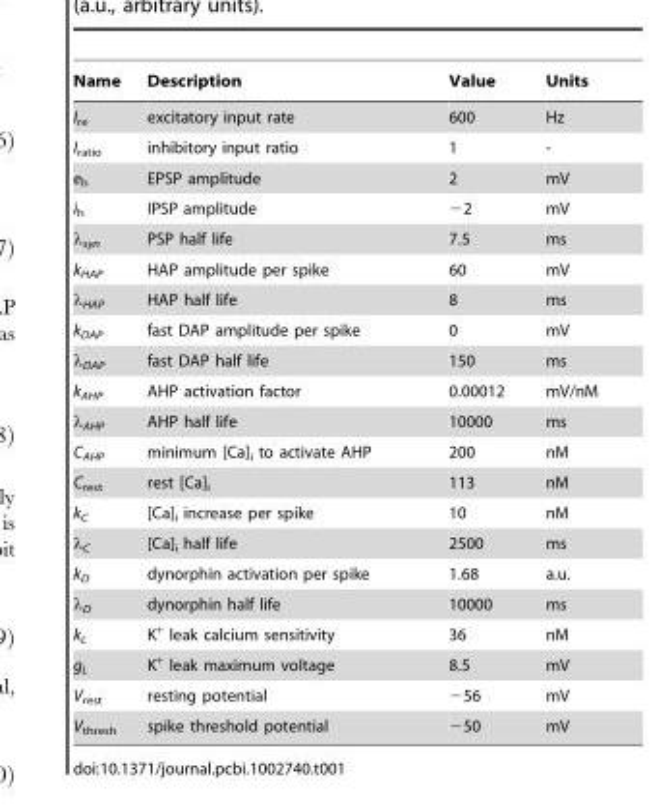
<table><thead><tr><td>Name</td><td>Description</td><td>Value</td><td>Units</td></tr></thead><tbody><tr><td>I<sub>re</sub></td><td>excitatory input rate</td><td>600</td><td>Hz</td></tr><tr><td>I<sub>ratio</sub></td><td>inhibitory input ratio</td><td>1</td><td>-</td></tr><tr><td>e<sub>h</sub></td><td>EPSP amplitude</td><td>2</td><td>mV</td></tr><tr><td>i<sub>h</sub></td><td>IPSP amplitude</td><td>−2</td><td>mV</td></tr><tr><td>λ<sub>syn</sub></td><td>PSP half life</td><td>7.5</td><td>ms</td></tr><tr><td>k<sub>HAP</sub></td><td>HAP amplitude per spike</td><td>60</td><td>mV</td></tr><tr><td>λ<sub>HAP</sub></td><td>HAP half life</td><td>8</td><td>ms</td></tr><tr><td>k<sub>DAP</sub></td><td>fast DAP amplitude per spike</td><td>0</td><td>mV</td></tr><tr><td>λ<sub>DAP</sub></td><td>fast DAP half life</td><td>150</td><td>ms</td></tr><tr><td>k<sub>AHP</sub></td><td>AHP activation factor</td><td>0.00012</td><td>mV/nM</td></tr><tr><td>λ<sub>AHP</sub></td><td>AHP half life</td><td>10000</td><td>ms</td></tr><tr><td>C<sub>AHP</sub></td><td>minimum [Ca]<sub>i</sub> to activate AHP</td><td>200</td><td>nM</td></tr><tr><td>C<sub>rest</sub></td><td>rest [Ca]<sub>i</sub></td><td>113</td><td>nM</td></tr><tr><td>k<sub>C</sub></td><td>[Ca]<sub>i</sub> increase per spike</td><td>10</td><td>nM</td></tr><tr><td>λ<sub>C</sub></td><td>[Ca]<sub>i</sub> half life</td><td>2500</td><td>ms</td></tr><tr><td>k<sub>D</sub></td><td>dynorphin activation per spike</td><td>1.68</td><td>a.u.</td></tr><tr><td>λ<sub>D</sub></td><td>dynorphin half life</td><td>10000</td><td>ms</td></tr><tr><td>k<sub>L</sub></td><td>K<sup>+</sup> leak calcium sensitivity</td><td>36</td><td>nM</td></tr><tr><td>g<sub>L</sub></td><td>K<sup>+</sup> leak maximum voltage</td><td>8.5</td><td>mV</td></tr><tr><td>V<sub>rest</sub></td><td>resting potential</td><td>−56</td><td>mV</td></tr><tr><td>V<sub>thresh</sub></td><td>spike threshold potential</td><td>−50</td><td>mV</td></tr></tbody></table>